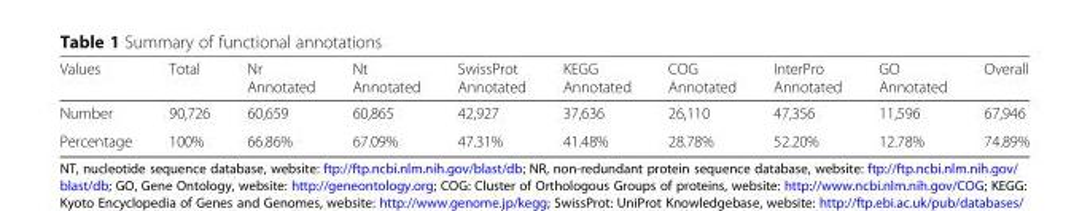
<table><thead><tr><td>Values</td><td>Total</td><td>Nr Annotated</td><td>Nt Annotated</td><td>SwissProt Annotated</td><td>KEGG Annotated</td><td>COG Annotated</td><td>InterPro Annotated</td><td>GO Annotated</td><td>Overall</td></tr></thead><tbody><tr><td>Number</td><td>90,726</td><td>60,659</td><td>60,865</td><td>42,927</td><td>37,636</td><td>26,110</td><td>47,356</td><td>11,596</td><td>67,946</td></tr><tr><td>Percentage</td><td>100%</td><td>66.86%</td><td>67.09%</td><td>47.31%</td><td>41.48%</td><td>28.78%</td><td>52.20%</td><td>12.78%</td><td>74.89%</td></tr></tbody></table>